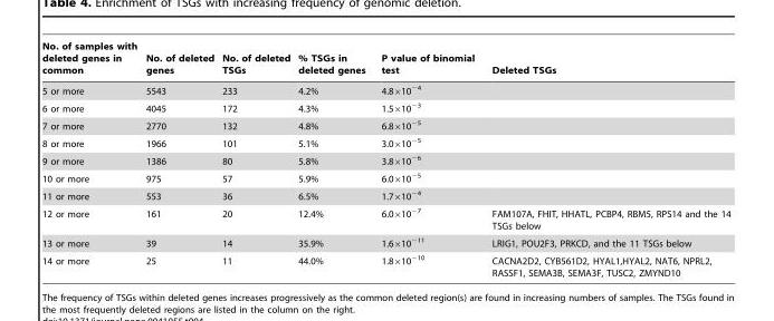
<table><thead><tr><td>No. of samples with deleted genes in common</td><td>No. of deleted genes</td><td>No. of deleted TSGs</td><td>% TSGs in deleted genes</td><td>P value of binomial test</td><td>Deleted TSGs</td></tr></thead><tbody><tr><td>5 or more</td><td>5543</td><td>233</td><td>4.2%</td><td>4.8×10<sup>−4</sup></td><td></td></tr><tr><td>6 or more</td><td>4045</td><td>172</td><td>4.3%</td><td>1.5×10<sup>−3</sup></td><td></td></tr><tr><td>7 or more</td><td>2770</td><td>132</td><td>4.8%</td><td>6.8×10<sup>−5</sup></td><td></td></tr><tr><td>8 or more</td><td>1966</td><td>101</td><td>5.1%</td><td>3.0×10<sup>−5</sup></td><td></td></tr><tr><td>9 or more</td><td>1386</td><td>80</td><td>5.8%</td><td>3.8×10<sup>−6</sup></td><td></td></tr><tr><td>10 or more</td><td>975</td><td>57</td><td>5.9%</td><td>6.0×10<sup>−5</sup></td><td></td></tr><tr><td>11 or more</td><td>553</td><td>36</td><td>6.5%</td><td>1.7×10<sup>−4</sup></td><td></td></tr><tr><td>12 or more</td><td>161</td><td>20</td><td>12.4%</td><td>6.0×10<sup>−7</sup></td><td>FAM107A, FHIT, HHATL, PCBP4, RBM5, RPS14 and the 14 TSGs below</td></tr><tr><td>13 or more</td><td>39</td><td>14</td><td>35.9%</td><td>1.6×10<sup>−11</sup></td><td>LRIG1, POU2F3, PRKCD, and the 11 TSGs below</td></tr><tr><td>14 or more</td><td>25</td><td>11</td><td>44.0%</td><td>1.8×10<sup>−10</sup></td><td>CACNA2D2, CYB561D2, HYAL1,HYAL2, NAT6, NPRL2, RASSF1, SEMA3B, SEMA3F, TUSC2, ZMYND10</td></tr></tbody></table>